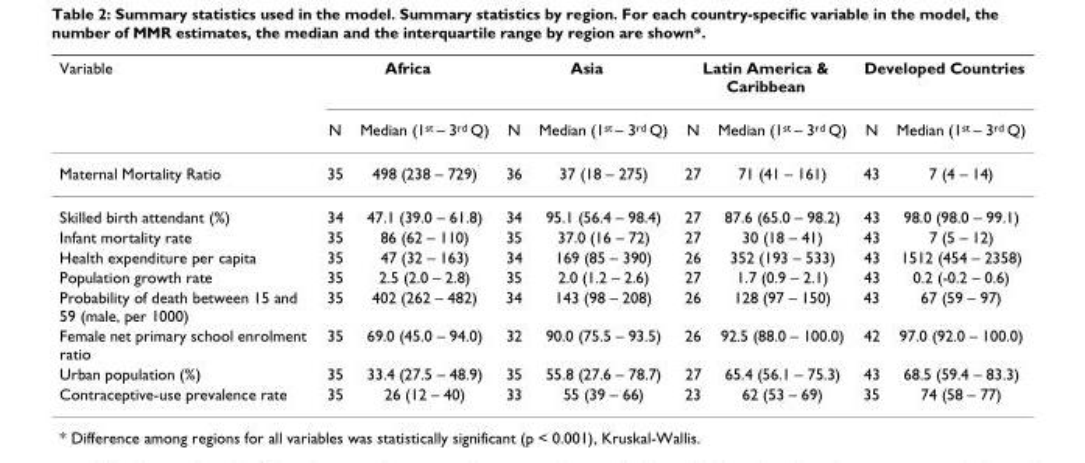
<table><thead><tr><td rowspan="2">Variable</td><td colspan="2">Africa</td><td colspan="2">Asia</td><td colspan="2">Latin America &amp; Caribbean</td><td colspan="2">Developed Countries</td></tr><tr><td>N</td><td>Median (1<sup>st</sup> – 3<sup>rd</sup> Q)</td><td>N</td><td>Median (1<sup>st</sup> – 3<sup>rd</sup> Q)</td><td>N</td><td>Median (1<sup>st</sup> – 3<sup>rd</sup> Q)</td><td>N</td><td>Median (1<sup>st</sup> – 3<sup>rd</sup> Q)</td></tr></thead><tbody><tr><td>Maternal Mortality Ratio</td><td>35</td><td>498 (238 – 729)</td><td>36</td><td>37 (18 – 275)</td><td>27</td><td>71 (41 – 161)</td><td>43</td><td>7 (4 – 14)</td></tr><tr><td>Skilled birth attendant (%)</td><td>34</td><td>47.1 (39.0 – 61.8)</td><td>34</td><td>95.1 (56.4 – 98.4)</td><td>27</td><td>87.6 (65.0 – 98.2)</td><td>43</td><td>98.0 (98.0 – 99.1)</td></tr><tr><td>Infant mortality rate</td><td>35</td><td>86 (62 – 110)</td><td>35</td><td>37.0 (16 – 72)</td><td>27</td><td>30 (18 – 41)</td><td>43</td><td>7 (5 – 12)</td></tr><tr><td>Health expenditure per capita</td><td>35</td><td>47 (32 – 163)</td><td>34</td><td>169 (85 – 390)</td><td>26</td><td>352 (193 – 533)</td><td>43</td><td>1512 (454 – 2358)</td></tr><tr><td>Population growth rate</td><td>35</td><td>2.5 (2.0 – 2.8)</td><td>35</td><td>2.0 (1.2 – 2.6)</td><td>27</td><td>1.7 (0.9 – 2.1)</td><td>43</td><td>0.2 (-0.2 – 0.6)</td></tr><tr><td>Probability of death between 15 and 59 (male, per 1000)</td><td>35</td><td>402 (262 – 482)</td><td>34</td><td>143 (98 – 208)</td><td>26</td><td>128 (97 – 150)</td><td>43</td><td>67 (59 – 97)</td></tr><tr><td>Female net primary school enrolment ratio</td><td>35</td><td>69.0 (45.0 – 94.0)</td><td>32</td><td>90.0 (75.5 – 93.5)</td><td>26</td><td>92.5 (88.0 – 100.0)</td><td>42</td><td>97.0 (92.0 – 100.0)</td></tr><tr><td>Urban population (%)</td><td>35</td><td>33.4 (27.5 – 48.9)</td><td>35</td><td>55.8 (27.6 – 78.7)</td><td>27</td><td>65.4 (56.1 – 75.3)</td><td>43</td><td>68.5 (59.4 – 83.3)</td></tr><tr><td>Contraceptive-use prevalence rate</td><td>35</td><td>26 (12 – 40)</td><td>33</td><td>55 (39 – 66)</td><td>23</td><td>62 (53 – 69)</td><td>35</td><td>74 (58 – 77)</td></tr></tbody></table>